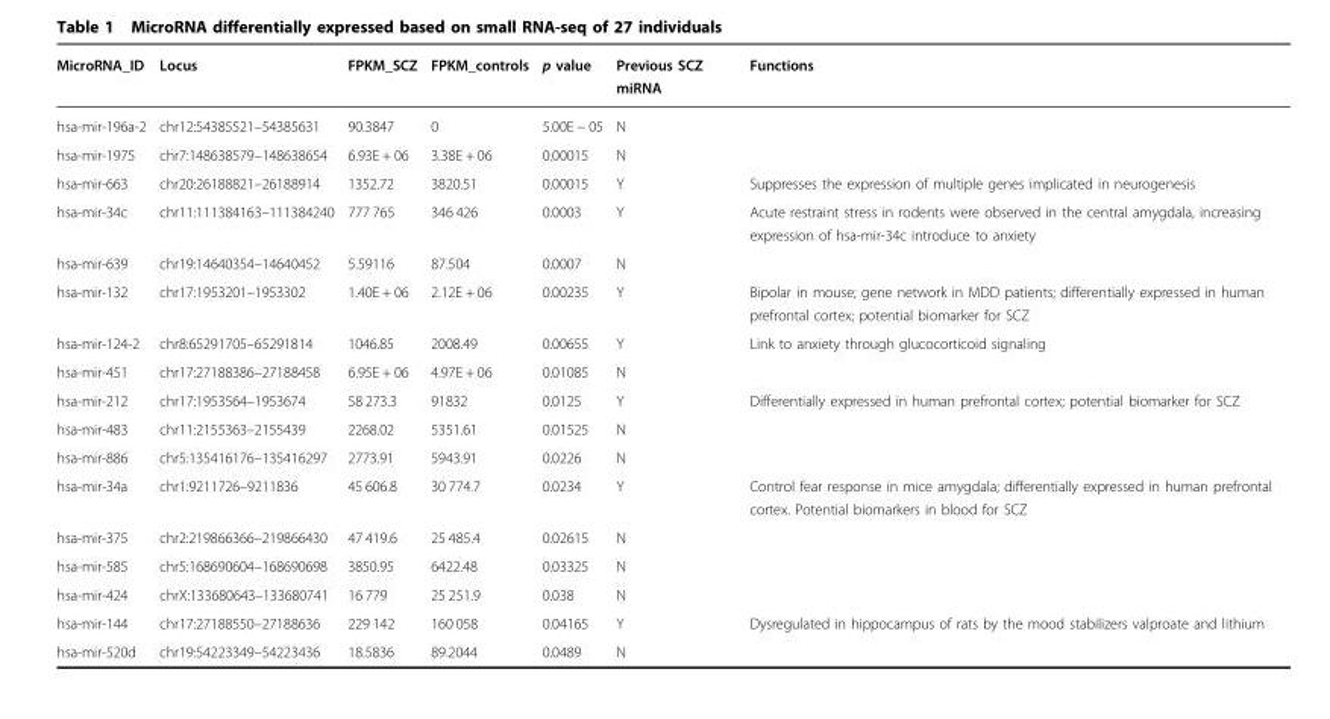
<table><thead><tr><td>MicroRNA_ID</td><td>Locus</td><td>FPKM_SCZ</td><td>FPKM_controls</td><td>p value</td><td>Previous SCZ miRNA</td><td>Functions</td></tr></thead><tbody><tr><td>hsa-mir-196a-2</td><td>chr12:54385521–54385631</td><td>90.3847</td><td>0</td><td>5.00E − 05</td><td>N</td><td></td></tr><tr><td>hsa-mir-1975</td><td>chr7:148638579–148638654</td><td>6.93E + 06</td><td>3.38E + 06</td><td>0.00015</td><td>N</td><td></td></tr><tr><td>hsa-mir-663</td><td>chr20:26188821–26188914</td><td>1352.72</td><td>3820.51</td><td>0.00015</td><td>Y</td><td>Suppresses the expression of multiple genes implicated in neurogenesis</td></tr><tr><td>hsa-mir-34c</td><td>chr11:111384163–111384240</td><td>777 765</td><td>346 426</td><td>0.0003</td><td>Y</td><td>Acute restraint stress in rodents were observed in the central amygdala, increasing expression of hsa-mir-34c introduce to anxiety</td></tr><tr><td>hsa-mir-639</td><td>chr19:14640354–14640452</td><td>5.59116</td><td>87.504</td><td>0.0007</td><td>N</td><td></td></tr><tr><td>hsa-mir-132</td><td>chr17:1953201–1953302</td><td>1.40E + 06</td><td>2.12E + 06</td><td>0.00235</td><td>Y</td><td>Bipolar in mouse; gene network in MDD patients; differentially expressed in human prefrontal cortex; potential biomarker for SCZ</td></tr><tr><td>hsa-mir-124-2</td><td>chr8:65291705–65291814</td><td>1046.85</td><td>2008.49</td><td>0.00655</td><td>Y</td><td>Link to anxiety through glucocorticoid signaling</td></tr><tr><td>hsa-mir-451</td><td>chr17:27188386–27188458</td><td>6.95E + 06</td><td>4.97E + 06</td><td>0.01085</td><td>N</td><td></td></tr><tr><td>hsa-mir-212</td><td>chr17:1953564–1953674</td><td>58 273.3</td><td>91832</td><td>0.0125</td><td>Y</td><td>Differentially expressed in human prefrontal cortex; potential biomarker for SCZ</td></tr><tr><td>hsa-mir-483</td><td>chr11:2155363–2155439</td><td>2268.02</td><td>5351.61</td><td>0.01525</td><td>N</td><td></td></tr><tr><td>hsa-mir-886</td><td>chr5:135416176–135416297</td><td>2773.91</td><td>5943.91</td><td>0.0226</td><td>N</td><td></td></tr><tr><td>hsa-mir-34a</td><td>chr1:9211726–9211836</td><td>45 606.8</td><td>30 774.7</td><td>0.0234</td><td>Y</td><td>Control fear response in mice amygdala; differentially expressed in human prefrontal cortex. Potential biomarkers in blood for SCZ</td></tr><tr><td>hsa-mir-375</td><td>chr2:219866366–219866430</td><td>47 419.6</td><td>25 485.4</td><td>0.02615</td><td>N</td><td></td></tr><tr><td>hsa-mir-585</td><td>chr5:168690604–168690698</td><td>3850.95</td><td>6422.48</td><td>0.03325</td><td>N</td><td></td></tr><tr><td>hsa-mir-424</td><td>chrX:133680643–133680741</td><td>16 779</td><td>25 251.9</td><td>0.038</td><td>N</td><td></td></tr><tr><td>hsa-mir-144</td><td>chr17:27188550–27188636</td><td>229 142</td><td>160 058</td><td>0.04165</td><td>Y</td><td>Dysregulated in hippocampus of rats by the mood stabilizers valproate and lithium</td></tr><tr><td>hsa-mir-520d</td><td>chr19:54223349–54223436</td><td>18.5836</td><td>89.2044</td><td>0.0489</td><td>N</td><td></td></tr></tbody></table>